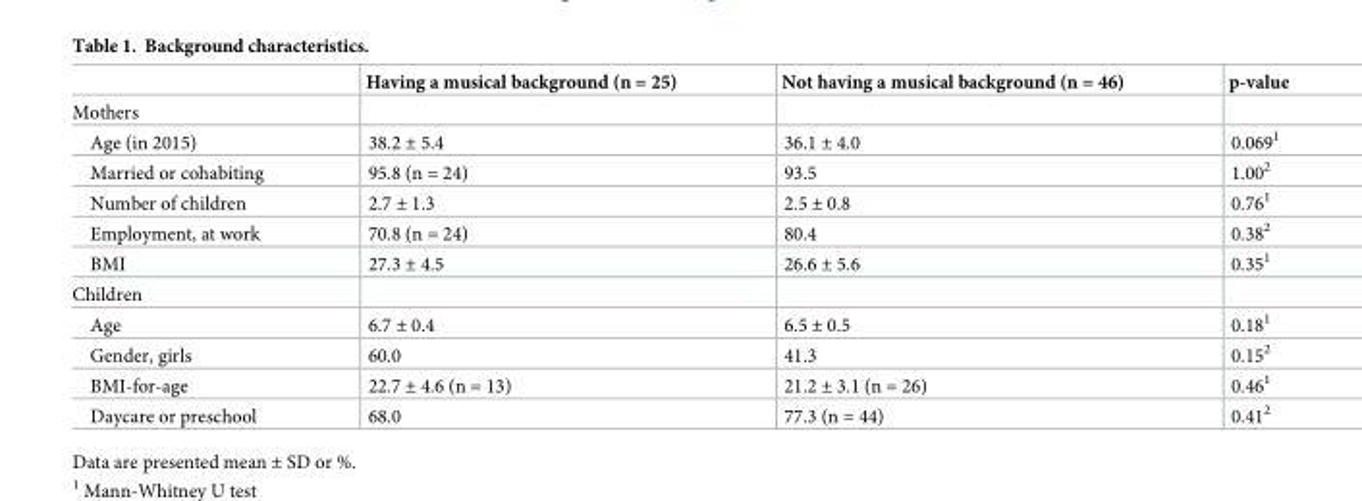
<table><thead><tr><td></td><td>Having a musical background (n = 25)</td><td>Not having a musical background (n = 46)</td><td>p-value</td></tr></thead><tbody><tr><td colspan="4">Mothers</td></tr><tr><td>Age (in 2015)</td><td>38.2 ± 5.4</td><td>36.1 ± 4.0</td><td>0.069<sup>1</sup></td></tr><tr><td>Married or cohabiting</td><td>95.8 (n = 24)</td><td>93.5</td><td>1.00<sup>2</sup></td></tr><tr><td>Number of children</td><td>2.7 ± 1.3</td><td>2.5 ± 0.8</td><td>0.76<sup>1</sup></td></tr><tr><td>Employment, at work</td><td>70.8 (n = 24)</td><td>80.4</td><td>0.38<sup>2</sup></td></tr><tr><td>BMI</td><td>27.3 ± 4.5</td><td>26.6 ± 5.6</td><td>0.35<sup>1</sup></td></tr><tr><td colspan="4">Children</td></tr><tr><td>Age</td><td>6.7 ± 0.4</td><td>6.5 ± 0.5</td><td>0.18<sup>1</sup></td></tr><tr><td>Gender, girls</td><td>60.0</td><td>41.3</td><td>0.15<sup>2</sup></td></tr><tr><td>BMI-for-age</td><td>22.7 ± 4.6 (n = 13)</td><td>21.2 ± 3.1 (n = 26)</td><td>0.46<sup>1</sup></td></tr><tr><td>Daycare or preschool</td><td>68.0</td><td>77.3 (n = 44)</td><td>0.41<sup>2</sup></td></tr></tbody></table>